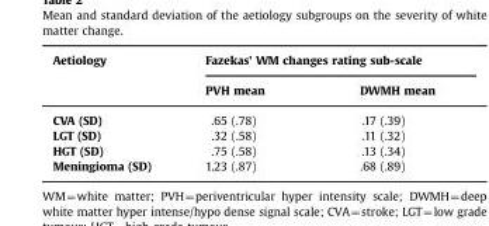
<table><thead><tr><td rowspan="2">Aetiology</td><td colspan="2">Fazekas&#x27; WM changes rating sub-scale</td></tr><tr><td>PVH mean</td><td>DWMH mean</td></tr></thead><tbody><tr><td>CVA (SD)</td><td>.65 (.78)</td><td>.17 (.39)</td></tr><tr><td>LGT (SD)</td><td>.32 (.58)</td><td>.11 (.32)</td></tr><tr><td>HGT (SD)</td><td>.75 (.58)</td><td>.13 (.34)</td></tr><tr><td>Meningioma (SD)</td><td>1.23 (.87)</td><td>.68 (.89)</td></tr></tbody></table>